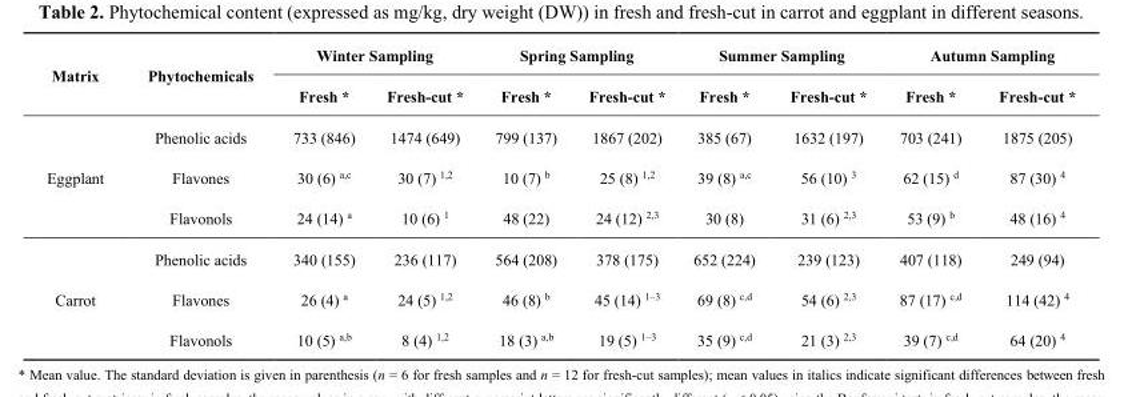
<table><thead><tr><td rowspan="2">Matrix</td><td rowspan="2">Phytochemicals</td><td colspan="2">Winter Sampling</td><td colspan="2">Spring Sampling</td><td colspan="2">Summer Sampling</td><td colspan="2">Autumn Sampling</td></tr><tr><td>Fresh *</td><td>Fresh-cut *</td><td>Fresh *</td><td>Fresh-cut *</td><td>Fresh *</td><td>Fresh-cut *</td><td>Fresh *</td><td>Fresh-cut *</td></tr></thead><tbody><tr><td rowspan="3">Eggplant</td><td>Phenolic acids</td><td>733 (846)</td><td>1474 (649)</td><td>799 (137)</td><td>1867 (202)</td><td>385 (67)</td><td>1632 (197)</td><td>703 (241)</td><td>1875 (205)</td></tr><tr><td>Flavones</td><td>30 (6) <sup>a,c</sup></td><td>30 (7) <sup>1,2</sup></td><td>10 (7) <sup>b</sup></td><td>25 (8) <sup>1,2</sup></td><td>39 (8) <sup>a,c</sup></td><td>56 (10) <sup>3</sup></td><td>62 (15) <sup>d</sup></td><td>87 (30) <sup>4</sup></td></tr><tr><td>Flavonols</td><td>24 (14) <sup>a</sup></td><td>10 (6) <sup>1</sup></td><td>48 (22)</td><td>24 (12) <sup>2,3</sup></td><td>30 (8)</td><td>31 (6) <sup>2,3</sup></td><td>53 (9) <sup>b</sup></td><td>48 (16) <sup>4</sup></td></tr><tr><td rowspan="3">Carrot</td><td>Phenolic acids</td><td>340 (155)</td><td>236 (117)</td><td>564 (208)</td><td>378 (175)</td><td>652 (224)</td><td>239 (123)</td><td>407 (118)</td><td>249 (94)</td></tr><tr><td>Flavones</td><td>26 (4) <sup>a</sup></td><td>24 (5) <sup>1,2</sup></td><td>46 (8) <sup>b</sup></td><td>45 (14) <sup>1–3</sup></td><td>69 (8) <sup>c,d</sup></td><td>54 (6) <sup>2,3</sup></td><td>87 (17) <sup>c,d</sup></td><td>114 (42) <sup>4</sup></td></tr><tr><td>Flavonols</td><td>10 (5) <sup>a,b</sup></td><td>8 (4) <sup>1,2</sup></td><td>18 (3) <sup>a,b</sup></td><td>19 (5) <sup>1–3</sup></td><td>35 (9) <sup>c,d</sup></td><td>21 (3) <sup>2,3</sup></td><td>39 (7) <sup>c,d</sup></td><td>64 (20) <sup>4</sup></td></tr></tbody></table>